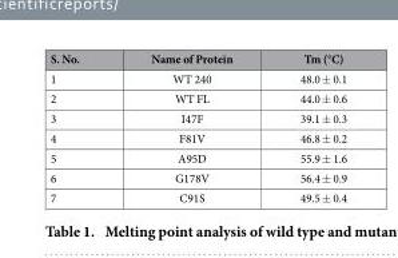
<table><thead><tr><td>S. No.</td><td>Name of Protein</td><td>Tm (°C)</td></tr></thead><tbody><tr><td>1</td><td>WT 240</td><td>48.0 ± 0.1</td></tr><tr><td>2</td><td>WT FL</td><td>44.0 ± 0.6</td></tr><tr><td>3</td><td>I47F</td><td>39.1 ± 0.3</td></tr><tr><td>4</td><td>F81V</td><td>46.8 ± 0.2</td></tr><tr><td>5</td><td>A95D</td><td>55.9 ± 1.6</td></tr><tr><td>6</td><td>G178V</td><td>56.4 ± 0.9</td></tr><tr><td>7</td><td>C91S</td><td>49.5 ± 0.4</td></tr></tbody></table>